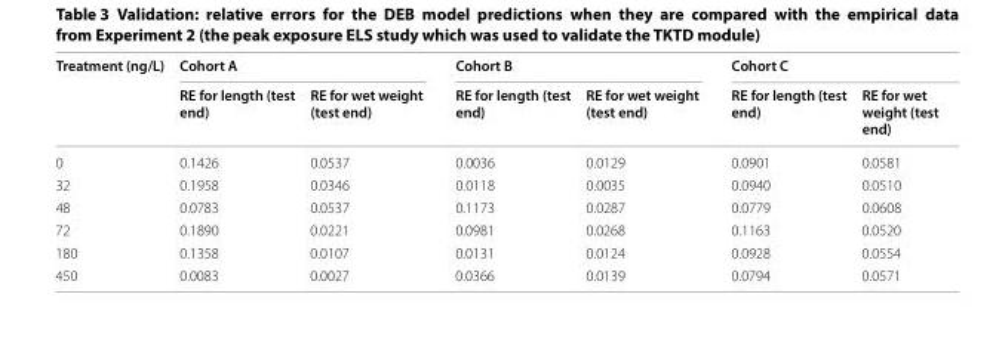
<table><thead><tr><td rowspan="2">Treatment (ng/L)</td><td colspan="2">Cohort A</td><td colspan="2">Cohort B</td><td colspan="2">Cohort C</td></tr><tr><td>RE for length (test end)</td><td>RE for wet weight (test end)</td><td>RE for length (test end)</td><td>RE for wet weight (test end)</td><td>RE for length (test end)</td><td>RE for wet weight (test end)</td></tr></thead><tbody><tr><td>0</td><td>0.1426</td><td>0.0537</td><td>0.0036</td><td>0.0129</td><td>0.0901</td><td>0.0581</td></tr><tr><td>32</td><td>0.1958</td><td>0.0346</td><td>0.0118</td><td>0.0035</td><td>0.0940</td><td>0.0510</td></tr><tr><td>48</td><td>0.0783</td><td>0.0537</td><td>0.1173</td><td>0.0287</td><td>0.0779</td><td>0.0608</td></tr><tr><td>72</td><td>0.1890</td><td>0.0221</td><td>0.0981</td><td>0.0268</td><td>0.1163</td><td>0.0520</td></tr><tr><td>180</td><td>0.1358</td><td>0.0107</td><td>0.0131</td><td>0.0124</td><td>0.0928</td><td>0.0554</td></tr><tr><td>450</td><td>0.0083</td><td>0.0027</td><td>0.0366</td><td>0.0139</td><td>0.0794</td><td>0.0571</td></tr></tbody></table>